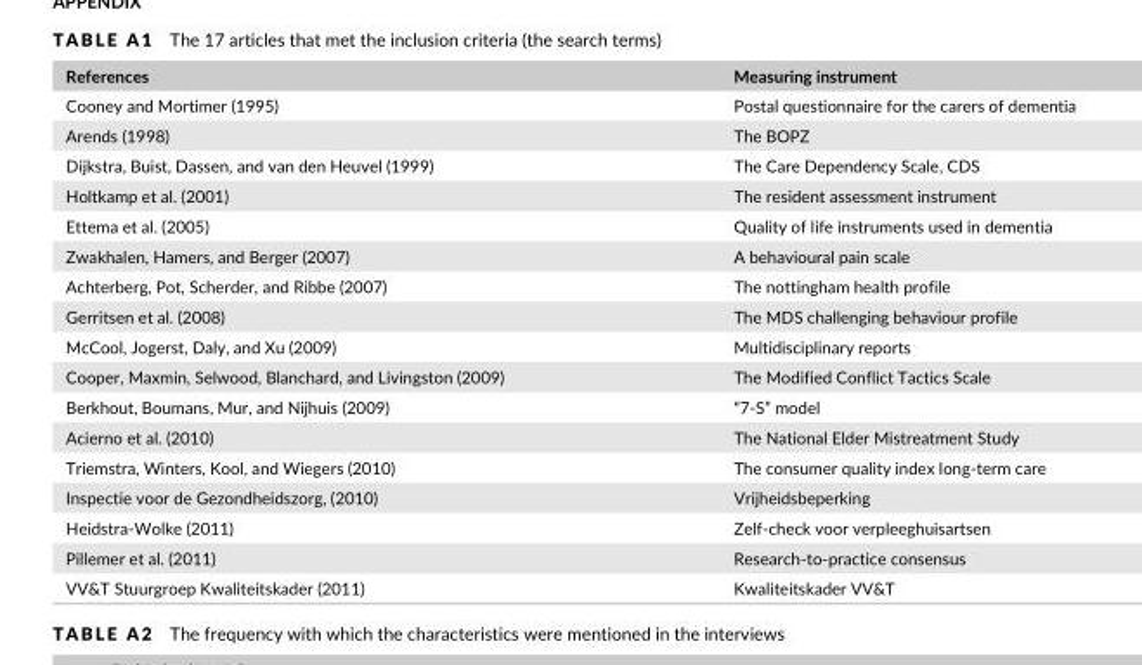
<table><thead><tr><td>References</td><td>Measuring instrument</td></tr></thead><tbody><tr><td>Cooney and Mortimer (1995)</td><td>Postal questionnaire for the carers of dementia</td></tr><tr><td>Arends (1998)</td><td>The BOPZ</td></tr><tr><td>Dijkstra, Buist, Dassen, and van den Heuvel (1999)</td><td>The Care Dependency Scale, CDS</td></tr><tr><td>Holtkamp et al. (2001)</td><td>The resident assessment instrument</td></tr><tr><td>Ettema et al. (2005)</td><td>Quality of life instruments used in dementia</td></tr><tr><td>Zwakhalen, Hamers, and Berger (2007)</td><td>A behavioural pain scale</td></tr><tr><td>Achterberg, Pot, Scherder, and Ribbe (2007)</td><td>The nottingham health profile</td></tr><tr><td>Gerritsen et al. (2008)</td><td>The MDS challenging behaviour profile</td></tr><tr><td>McCool, Jogerst, Daly, and Xu (2009)</td><td>Multidisciplinary reports</td></tr><tr><td>Cooper, Maxmin, Selwood, Blanchard, and Livingston (2009)</td><td>The Modified Conflict Tactics Scale</td></tr><tr><td>Berkhout, Boumans, Mur, and Nijhuis (2009)</td><td>“7- S” model</td></tr><tr><td>Acierno et al. (2010)</td><td>The National Elder Mistreatment Study</td></tr><tr><td>Triemstra, Winters, Kool, and Wiegers (2010)</td><td>The consumer quality index long- term care</td></tr><tr><td>Inspectie voor de Gezondheidszorg, (2010)</td><td>Vrijheidsbeperking</td></tr><tr><td>Heidstra- Wolke (2011)</td><td>Zelf- check voor verpleeghuisartsen</td></tr><tr><td>Pillemer et al. (2011)</td><td>Research- to- practice consensus</td></tr><tr><td>VV&amp;T Stuurgroep Kwaliteitskader (2011)</td><td>Kwaliteitskader VV&amp;T</td></tr></tbody></table>